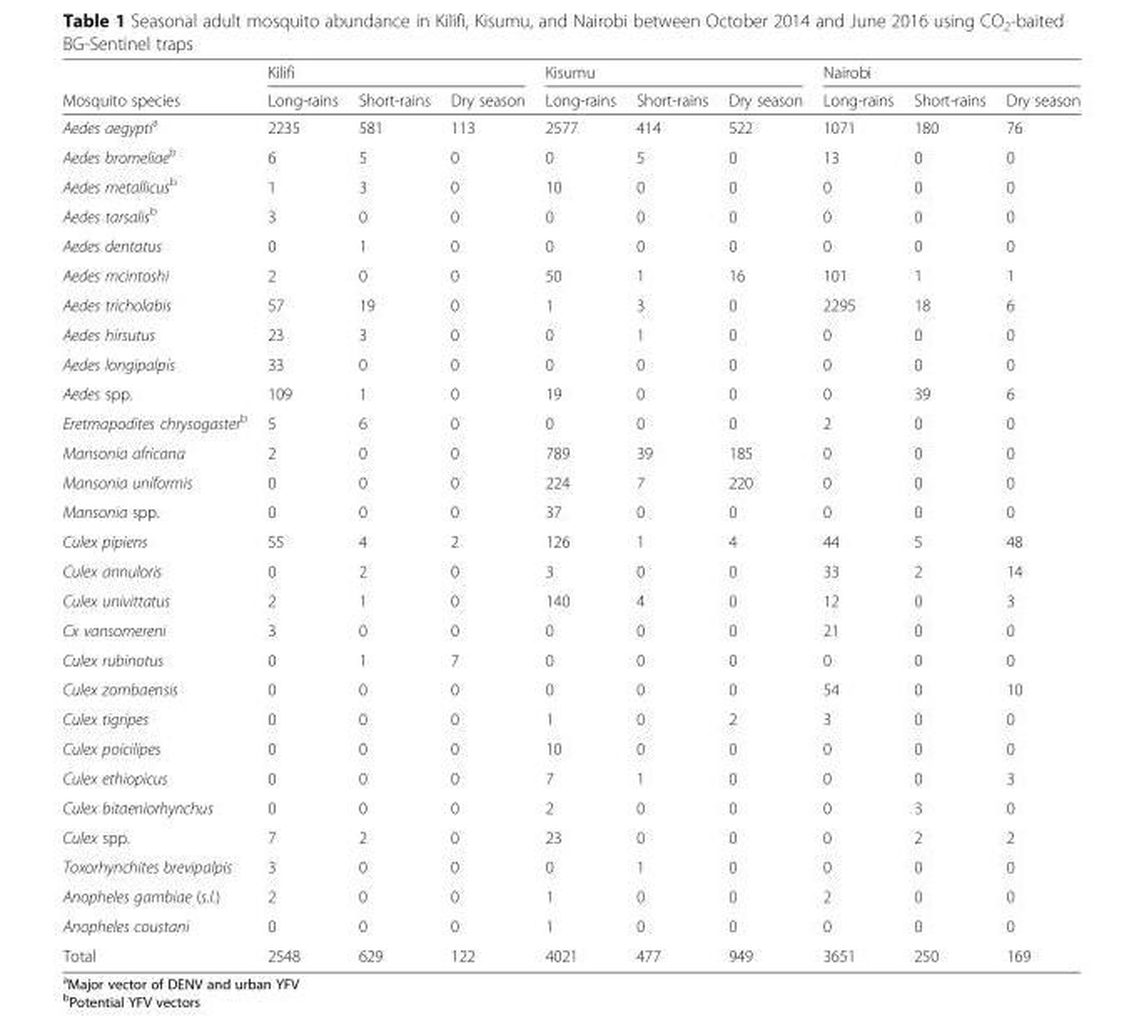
<table><thead><tr><td rowspan="2">Mosquito species</td><td colspan="3">Kilifi</td><td colspan="3">Kisumu</td><td colspan="3">Nairobi</td></tr><tr><td>Long-rains</td><td>Short-rains</td><td>Dry season</td><td>Long-rains</td><td>Short-rains</td><td>Dry season</td><td>Long-rains</td><td>Short-rains</td><td>Dry season</td></tr></thead><tbody><tr><td>Aedes aegypti<sup>a</sup></td><td>2235</td><td>581</td><td>113</td><td>2577</td><td>414</td><td>522</td><td>1071</td><td>180</td><td>76</td></tr><tr><td>Aedes bromeliae<sup>b</sup></td><td>6</td><td>5</td><td>0</td><td>0</td><td>5</td><td>0</td><td>13</td><td>0</td><td>0</td></tr><tr><td>Aedes metallicus<sup>b</sup></td><td>1</td><td>3</td><td>0</td><td>10</td><td>0</td><td>0</td><td>0</td><td>0</td><td>0</td></tr><tr><td>Aedes tarsalis<sup>b</sup></td><td>3</td><td>0</td><td>0</td><td>0</td><td>0</td><td>0</td><td>0</td><td>0</td><td>0</td></tr><tr><td>Aedes dentatus</td><td>0</td><td>1</td><td>0</td><td>0</td><td>0</td><td>0</td><td>0</td><td>0</td><td>0</td></tr><tr><td>Aedes mcintoshi</td><td>2</td><td>0</td><td>0</td><td>50</td><td>1</td><td>16</td><td>101</td><td>1</td><td>1</td></tr><tr><td>Aedes tricholabis</td><td>57</td><td>19</td><td>0</td><td>1</td><td>3</td><td>0</td><td>2295</td><td>18</td><td>6</td></tr><tr><td>Aedes hirsutus</td><td>23</td><td>3</td><td>0</td><td>0</td><td>1</td><td>0</td><td>0</td><td>0</td><td>0</td></tr><tr><td>Aedes longipalpis</td><td>33</td><td>0</td><td>0</td><td>0</td><td>0</td><td>0</td><td>0</td><td>0</td><td>0</td></tr><tr><td>Aedes spp.</td><td>109</td><td>1</td><td>0</td><td>19</td><td>0</td><td>0</td><td>0</td><td>39</td><td>6</td></tr><tr><td>Eretmapodites chrysogaster<sup>b</sup></td><td>5</td><td>6</td><td>0</td><td>0</td><td>0</td><td>0</td><td>2</td><td>0</td><td>0</td></tr><tr><td>Mansonia africana</td><td>2</td><td>0</td><td>0</td><td>789</td><td>39</td><td>185</td><td>0</td><td>0</td><td>0</td></tr><tr><td>Mansonia uniformis</td><td>0</td><td>0</td><td>0</td><td>224</td><td>7</td><td>220</td><td>0</td><td>0</td><td>0</td></tr><tr><td>Mansonia spp.</td><td>0</td><td>0</td><td>0</td><td>37</td><td>0</td><td>0</td><td>0</td><td>0</td><td>0</td></tr><tr><td>Culex pipiens</td><td>55</td><td>4</td><td>2</td><td>126</td><td>1</td><td>4</td><td>44</td><td>5</td><td>48</td></tr><tr><td>Culex annuloris</td><td>0</td><td>2</td><td>0</td><td>3</td><td>0</td><td>0</td><td>33</td><td>2</td><td>14</td></tr><tr><td>Culex univittatus</td><td>2</td><td>1</td><td>0</td><td>140</td><td>4</td><td>0</td><td>12</td><td>0</td><td>3</td></tr><tr><td>Cx vansomereni</td><td>3</td><td>0</td><td>0</td><td>0</td><td>0</td><td>0</td><td>21</td><td>0</td><td>0</td></tr><tr><td>Culex rubinotus</td><td>0</td><td>1</td><td>7</td><td>0</td><td>0</td><td>0</td><td>0</td><td>0</td><td>0</td></tr><tr><td>Culex zombaensis</td><td>0</td><td>0</td><td>0</td><td>0</td><td>0</td><td>0</td><td>54</td><td>0</td><td>10</td></tr><tr><td>Culex tigripes</td><td>0</td><td>0</td><td>0</td><td>1</td><td>0</td><td>2</td><td>3</td><td>0</td><td>0</td></tr><tr><td>Culex poicilipes</td><td>0</td><td>0</td><td>0</td><td>10</td><td>0</td><td>0</td><td>0</td><td>0</td><td>0</td></tr><tr><td>Culex ethiopicus</td><td>0</td><td>0</td><td>0</td><td>7</td><td>1</td><td>0</td><td>0</td><td>0</td><td>3</td></tr><tr><td>Culex bitaeniorhynchus</td><td>0</td><td>0</td><td>0</td><td>2</td><td>0</td><td>0</td><td>0</td><td>3</td><td>0</td></tr><tr><td>Culex spp.</td><td>7</td><td>2</td><td>0</td><td>23</td><td>0</td><td>0</td><td>0</td><td>2</td><td>2</td></tr><tr><td>Toxorhynchites brevipalpis</td><td>3</td><td>0</td><td>0</td><td>0</td><td>1</td><td>0</td><td>0</td><td>0</td><td>0</td></tr><tr><td>Anopheles gambiae (s.l.)</td><td>2</td><td>0</td><td>0</td><td>1</td><td>0</td><td>0</td><td>2</td><td>0</td><td>0</td></tr><tr><td>Anopheles coustani</td><td>0</td><td>0</td><td>0</td><td>1</td><td>0</td><td>0</td><td>0</td><td>0</td><td>0</td></tr><tr><td>Total</td><td>2548</td><td>629</td><td>122</td><td>4021</td><td>477</td><td>949</td><td>3651</td><td>250</td><td>169</td></tr></tbody></table>